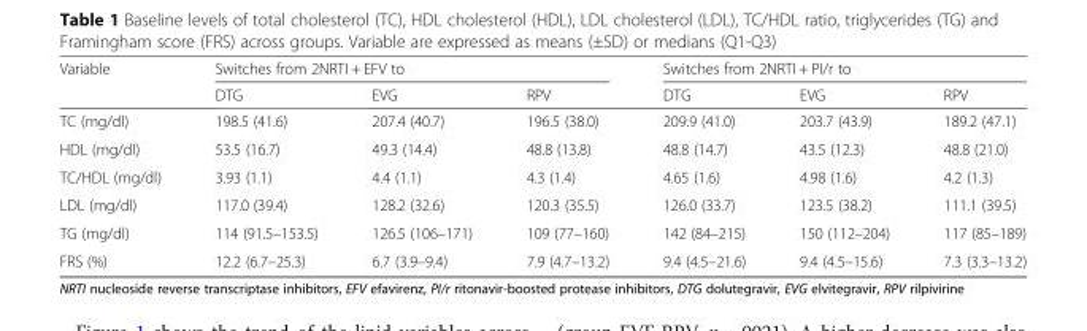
<table><thead><tr><td rowspan="2">Variable</td><td colspan="3">Switches from 2NRTI + EFV to</td><td colspan="3">Switches from 2NRTI + PI/r to</td></tr><tr><td>DTG</td><td>EVG</td><td>RPV</td><td>DTG</td><td>EVG</td><td>RPV</td></tr></thead><tbody><tr><td>TC (mg/dl)</td><td>198.5 (41.6)</td><td>207.4 (40.7)</td><td>196.5 (38.0)</td><td>209.9 (41.0)</td><td>203.7 (43.9)</td><td>189.2 (47.1)</td></tr><tr><td>HDL (mg/dl)</td><td>53.5 (16.7)</td><td>49.3 (14.4)</td><td>48.8 (13.8)</td><td>48.8 (14.7)</td><td>43.5 (12.3)</td><td>48.8 (21.0)</td></tr><tr><td>TC/HDL (mg/dl)</td><td>3.93 (1.1)</td><td>4.4 (1.1)</td><td>4.3 (1.4)</td><td>4.65 (1.6)</td><td>4.98 (1.6)</td><td>4.2 (1.3)</td></tr><tr><td>LDL (mg/dl)</td><td>117.0 (39.4)</td><td>128.2 (32.6)</td><td>120.3 (35.5)</td><td>126.0 (33.7)</td><td>123.5 (38.2)</td><td>111.1 (39.5)</td></tr><tr><td>TG (mg/dl)</td><td>114 (91.5–153.5)</td><td>126.5 (106–171)</td><td>109 (77–160)</td><td>142 (84–215)</td><td>150 (112–204)</td><td>117 (85–189)</td></tr><tr><td>FRS (%)</td><td>12.2 (6.7–25.3)</td><td>6.7 (3.9–9.4)</td><td>7.9 (4.7–13.2)</td><td>9.4 (4.5–21.6)</td><td>9.4 (4.5–15.6)</td><td>7.3 (3.3–13.2)</td></tr></tbody></table>